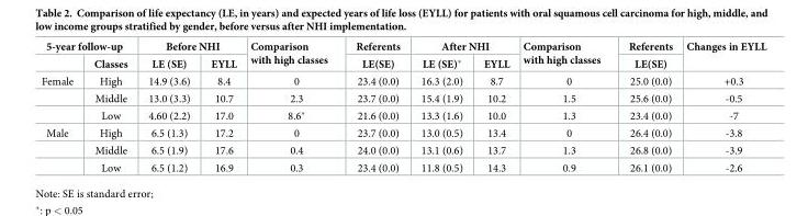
<table><thead><tr><td colspan="2">5-year follow-up</td><td colspan="2">Before NHI</td><td rowspan="2">Comparison with high classes</td><td rowspan="2">Referents LE(SE)</td><td colspan="2">After NHI</td><td rowspan="2">Comparison with high classes</td><td rowspan="2">Referents LE(SE)</td><td rowspan="2">Changes in EYLL</td></tr><tr><td></td><td>Classes</td><td>LE (SE)</td><td>EYLL</td><td>LE (SE)*</td><td>EYLL</td></tr></thead><tbody><tr><td rowspan="3">Female</td><td>High</td><td>14.9 (3.6)</td><td>8.4</td><td>0</td><td>23.4 (0.0)</td><td>16.3 (2.0)</td><td>8.7</td><td>0</td><td>25.0 (0.0)</td><td>+0.3</td></tr><tr><td>Middle</td><td>13.0 (3.3)</td><td>10.7</td><td>2.3</td><td>23.7 (0.0)</td><td>15.4 (1.9)</td><td>10.2</td><td>1.5</td><td>25.6 (0.0)</td><td>-0.5</td></tr><tr><td>Low</td><td>4.60 (2.2)</td><td>17.0</td><td>8.6*</td><td>21.6 (0.0)</td><td>13.3 (1.6)</td><td>10.0</td><td>1.3</td><td>23.4 (0.0)</td><td>-7</td></tr><tr><td rowspan="3">Male</td><td>High</td><td>6.5 (1.3)</td><td>17.2</td><td>0</td><td>23.7 (0.0)</td><td>13.0 (0.5)</td><td>13.4</td><td>0</td><td>26.4 (0.0)</td><td>-3.8</td></tr><tr><td>Middle</td><td>6.5 (1.9)</td><td>17.6</td><td>0.4</td><td>24.0 (0.0)</td><td>13.1 (0.6)</td><td>13.7</td><td>1.3</td><td>26.8 (0.0)</td><td>-3.9</td></tr><tr><td>Low</td><td>6.5 (1.2)</td><td>16.9</td><td>0.3</td><td>23.4 (0.0)</td><td>11.8 (0.5)</td><td>14.3</td><td>0.9</td><td>26.1 (0.0)</td><td>-2.6</td></tr></tbody></table>